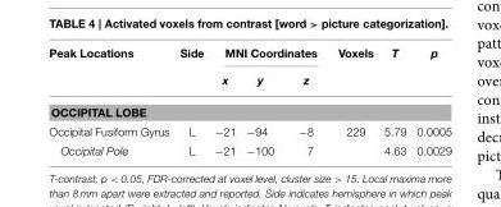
<table><thead><tr><td rowspan="2">Peak Locations</td><td rowspan="2">Side</td><td colspan="3">MNI Coordinates</td><td rowspan="2">Voxels</td><td rowspan="2">T</td><td rowspan="2">p</td></tr><tr><td>x</td><td>y</td><td>z</td></tr></thead><tbody><tr><td colspan="8">OCCIPITAL LOBE</td></tr><tr><td>Occipital Fusiform Gyrus</td><td>L</td><td>−21</td><td>−94</td><td>−8</td><td>229</td><td>5.79</td><td>0.0005</td></tr><tr><td>Occipital Pole</td><td>L</td><td>−21</td><td>−100</td><td>7</td><td></td><td>4.63</td><td>0.0029</td></tr></tbody></table>